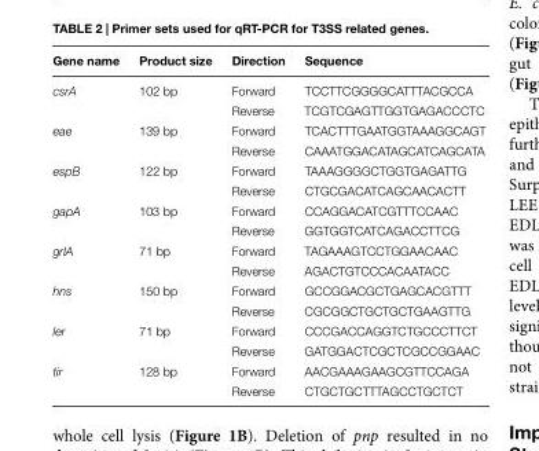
<table><thead><tr><td>Gene name</td><td>Product size</td><td>Direction</td><td>Sequence</td></tr></thead><tbody><tr><td rowspan="2">csrA</td><td>102 bp</td><td>Forward</td><td>TCCTTCGGGGCATTTACGCCA</td></tr><tr><td></td><td>Reverse</td><td>TCGTCGAGTTGGTGAGACCCTC</td></tr><tr><td rowspan="2">eae</td><td>139 bp</td><td>Forward</td><td>TCACTTTGAATGGTAAAGGCAGT</td></tr><tr><td></td><td>Reverse</td><td>CAAATGGACATAGCATCAGCATA</td></tr><tr><td rowspan="2">espB</td><td>122 bp</td><td>Forward</td><td>TAAAGGGGCTGGTGAGATTG</td></tr><tr><td></td><td>Reverse</td><td>CTGCGACATCAGCAACACTT</td></tr><tr><td rowspan="2">gapA</td><td>103 bp</td><td>Forward</td><td>CCAGGACATCGTTTCCAAC</td></tr><tr><td></td><td>Reverse</td><td>GGTGGTCATCAGACCTTCG</td></tr><tr><td rowspan="2">grlA</td><td>71 bp</td><td>Forward</td><td>TAGAAAGTCCTGGAACAAC</td></tr><tr><td></td><td>Reverse</td><td>AGACTGTCCCACAATACC</td></tr><tr><td rowspan="2">hns</td><td>150 bp</td><td>Forward</td><td>GCCGGACGCTGAGCACGTTT</td></tr><tr><td></td><td>Reverse</td><td>CGCGGCTGCTGCTGAAGTTG</td></tr><tr><td rowspan="2">ler</td><td>71 bp</td><td>Forward</td><td>CCCGACCAGGTCTGCCCTTCT</td></tr><tr><td></td><td>Reverse</td><td>GATGGACTCGCTCGCCGGAAC</td></tr><tr><td rowspan="2">tir</td><td>128 bp</td><td>Forward</td><td>AACGAAAGAAGCGTTCCAGA</td></tr><tr><td></td><td>Reverse</td><td>CTGCTGCTTTAGCCTGCTCT</td></tr></tbody></table>